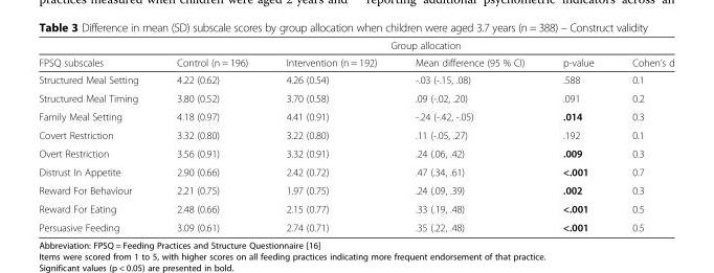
<table><thead><tr><td rowspan="2">FPSQ subscales</td><td colspan="5">Group allocation</td></tr><tr><td>Control (n = 196)</td><td>Intervention (n = 192)</td><td>Mean difference (95 % CI)</td><td>p-value</td><td>Cohen’s d</td></tr></thead><tbody><tr><td>Structured Meal Setting</td><td>4.22 (0.62)</td><td>4.26 (0.54)</td><td>-.03 (-.15, .08)</td><td>.588</td><td>0.1</td></tr><tr><td>Structured Meal Timing</td><td>3.80 (0.52)</td><td>3.70 (0.58)</td><td>.09 (-.02, .20)</td><td>.091</td><td>0.2</td></tr><tr><td>Family Meal Setting</td><td>4.18 (0.97)</td><td>4.41 (0.91)</td><td>-.24 (-.42, -.05)</td><td>.014</td><td>0.3</td></tr><tr><td>Covert Restriction</td><td>3.32 (0.80)</td><td>3.22 (0.80)</td><td>.11 (-.05, .27)</td><td>.192</td><td>0.1</td></tr><tr><td>Overt Restriction</td><td>3.56 (0.91)</td><td>3.32 (0.91)</td><td>.24 (.06, .42)</td><td>.009</td><td>0.3</td></tr><tr><td>Distrust In Appetite</td><td>2.90 (0.66)</td><td>2.42 (0.72)</td><td>.47 (.34, .61)</td><td>&lt;.001</td><td>0.7</td></tr><tr><td>Reward For Behaviour</td><td>2.21 (0.75)</td><td>1.97 (0.75)</td><td>.24 (.09, .39)</td><td>.002</td><td>0.3</td></tr><tr><td>Reward For Eating</td><td>2.48 (0.66)</td><td>2.15 (0.77)</td><td>.33 (.19, .48)</td><td>&lt;.001</td><td>0.5</td></tr><tr><td>Persuasive Feeding</td><td>3.09 (0.61)</td><td>2.74 (0.71)</td><td>.35 (.22, .48)</td><td>&lt;.001</td><td>0.5</td></tr></tbody></table>